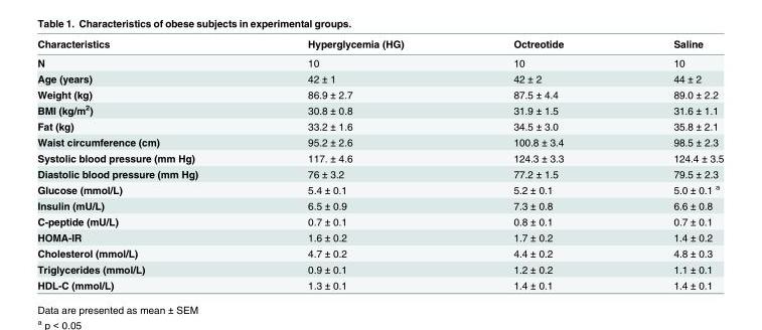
<table><thead><tr><td>Characteristics</td><td>Hyperglycemia (HG)</td><td>Octreotide</td><td>Saline</td></tr></thead><tbody><tr><td>N</td><td>10</td><td>10</td><td>10</td></tr><tr><td>Age (years)</td><td>42 ± 1</td><td>42 ± 2</td><td>44 ± 2</td></tr><tr><td>Weight (kg)</td><td>86.9 ± 2.7</td><td>87.5 ± 4.4</td><td>89.0 ± 2.2</td></tr><tr><td>BMI (kg/m<sup>2</sup>)</td><td>30.8 ± 0.8</td><td>31.9 ± 1.5</td><td>31.6 ± 1.1</td></tr><tr><td>Fat (kg)</td><td>33.2 ± 1.6</td><td>34.5 ± 3.0</td><td>35.8 ± 2.1</td></tr><tr><td>Waist circumference (cm)</td><td>95.2 ± 2.6</td><td>100.8 ± 3.4</td><td>98.5 ± 2.3</td></tr><tr><td>Systolic blood pressure (mm Hg)</td><td>117. ± 4.6</td><td>124.3 ± 3.3</td><td>124.4 ± 3.5</td></tr><tr><td>Diastolic blood pressure (mm Hg)</td><td>76 ± 3.2</td><td>77.2 ± 1.5</td><td>79.5 ± 2.3</td></tr><tr><td>Glucose (mmol/L)</td><td>5.4 ± 0.1</td><td>5.2 ± 0.1</td><td>5.0 ± 0.1 <sup>a</sup></td></tr><tr><td>Insulin (mU/L)</td><td>6.5 ± 0.9</td><td>7.3 ± 0.8</td><td>6.6 ± 0.8</td></tr><tr><td>C-peptide (mU/L)</td><td>0.7 ± 0.1</td><td>0.8 ± 0.1</td><td>0.7 ± 0.1</td></tr><tr><td>HOMA-IR</td><td>1.6 ± 0.2</td><td>1.7 ± 0.2</td><td>1.4 ± 0.2</td></tr><tr><td>Cholesterol (mmol/L)</td><td>4.7 ± 0.2</td><td>4.4 ± 0.2</td><td>4.8 ± 0.3</td></tr><tr><td>Triglycerides (mmol/L)</td><td>0.9 ± 0.1</td><td>1.2 ± 0.2</td><td>1.1 ± 0.1</td></tr><tr><td>HDL-C (mmol/L)</td><td>1.3 ± 0.1</td><td>1.4 ± 0.1</td><td>1.4 ± 0.1</td></tr></tbody></table>